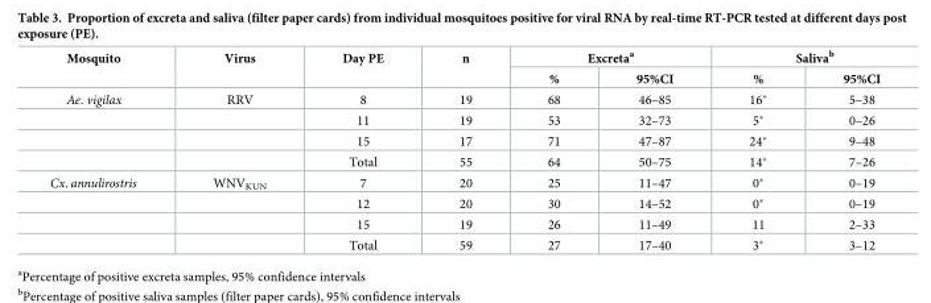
<table><thead><tr><td rowspan="2">Mosquito</td><td rowspan="2">Virus</td><td rowspan="2">Day PE</td><td rowspan="2">n</td><td colspan="2">Excreta<sup>a</sup></td><td colspan="2">Saliva<sup>b</sup></td></tr><tr><td>%</td><td>95%CI</td><td>%</td><td>95%CI</td></tr></thead><tbody><tr><td rowspan="4">Ae. vigilax</td><td>RRV</td><td>8</td><td>19</td><td>68</td><td>46–85</td><td>16*</td><td>5–38</td></tr><tr><td></td><td>11</td><td>19</td><td>53</td><td>32–73</td><td>5*</td><td>0–26</td></tr><tr><td></td><td>15</td><td>17</td><td>71</td><td>47–87</td><td>24*</td><td>9–48</td></tr><tr><td></td><td>Total</td><td>55</td><td>64</td><td>50–75</td><td>14*</td><td>7–26</td></tr><tr><td rowspan="4">Cx. annulirostris</td><td>WNV<sub>KUN</sub></td><td>7</td><td>20</td><td>25</td><td>11–47</td><td>0*</td><td>0–19</td></tr><tr><td></td><td>12</td><td>20</td><td>30</td><td>14–52</td><td>0*</td><td>0–19</td></tr><tr><td></td><td>15</td><td>19</td><td>26</td><td>11–49</td><td>11</td><td>2–33</td></tr><tr><td></td><td>Total</td><td>59</td><td>27</td><td>17–40</td><td>3*</td><td>3–12</td></tr></tbody></table>